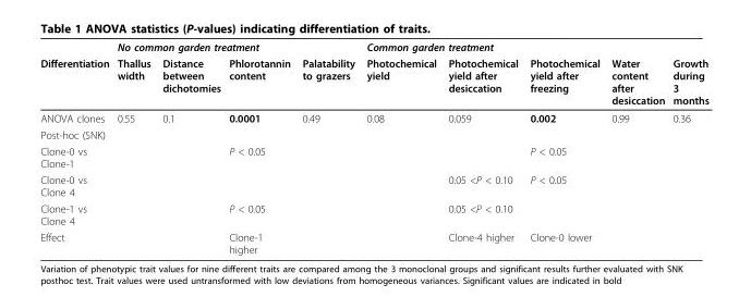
<table><thead><tr><td rowspan="2">Differentiation</td><td colspan="4">No common garden treatment</td><td colspan="5">Common garden treatment</td></tr><tr><td>Thallus width</td><td>Distance between dichotomies</td><td>Phlorotannin content</td><td>Palatability to grazers</td><td>Photochemical yield</td><td>Photochemical yield after desiccation</td><td>Photochemical yield after freezing</td><td>Water content after desiccation</td><td>Growth during 3 months</td></tr></thead><tbody><tr><td>ANOVA clones</td><td>0.55</td><td>0.1</td><td>0.0001</td><td>0.49</td><td>0.08</td><td>0.059</td><td>0.002</td><td>0.99</td><td>0.36</td></tr><tr><td colspan="10">Post-hoc (SNK)</td></tr><tr><td>Clone-0 vs Clone-1</td><td></td><td></td><td>P &lt; 0.05</td><td></td><td></td><td></td><td>P &lt; 0.05</td><td></td><td></td></tr><tr><td>Clone-0 vs Clone 4</td><td></td><td></td><td></td><td></td><td></td><td>0.05 &lt;P &lt; 0.10</td><td>P &lt; 0.05</td><td></td><td></td></tr><tr><td>Clone-1 vs Clone 4</td><td></td><td></td><td>P &lt; 0.05</td><td></td><td></td><td>0.05 &lt;P &lt; 0.10</td><td></td><td></td><td></td></tr><tr><td>Effect</td><td></td><td></td><td>Clone-1 higher</td><td></td><td></td><td>Clone-4 higher</td><td>Clone-0 lower</td><td></td><td></td></tr></tbody></table>